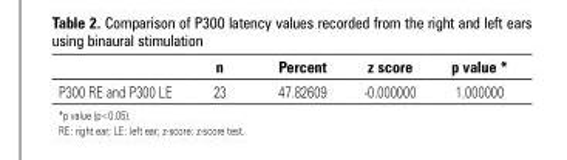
<table><thead><tr><td></td><td>n</td><td>Percent</td><td>z score</td><td>p value *</td></tr></thead><tbody><tr><td>P300 RE and P300 LE</td><td>23</td><td>47.82609</td><td>-0.000000</td><td>1.000000</td></tr></tbody></table>